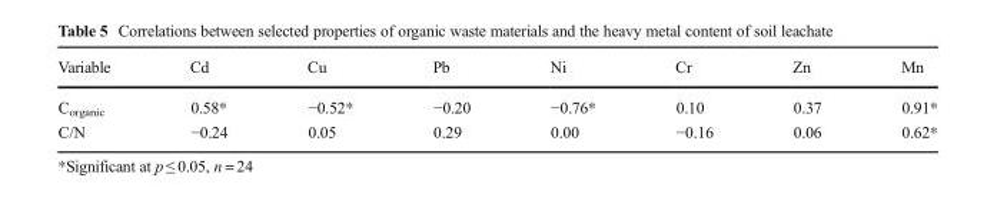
<table><thead><tr><td>Variable</td><td>Cd</td><td>Cu</td><td>Pb</td><td>Ni</td><td>Cr</td><td>Zn</td><td>Mn</td></tr></thead><tbody><tr><td>C<sub>organic</sub></td><td>0.58*</td><td>−0.52*</td><td>−0.20</td><td>−0.76*</td><td>0.10</td><td>0.37</td><td>0.91*</td></tr><tr><td>C/N</td><td>−0.24</td><td>0.05</td><td>0.29</td><td>0.00</td><td>−0.16</td><td>0.06</td><td>0.62*</td></tr></tbody></table>